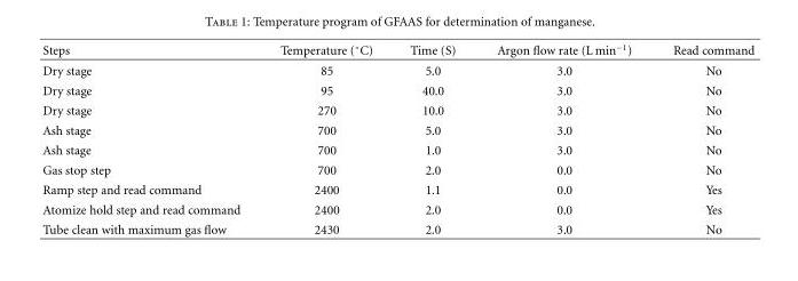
<table><thead><tr><td>Steps</td><td>Temperature (◦C)</td><td>Time (S)</td><td>Argon flow rate (L min<sup>−1</sup>)</td><td>Read command</td></tr></thead><tbody><tr><td>Dry stage</td><td>85</td><td>5.0</td><td>3.0</td><td>No</td></tr><tr><td>Dry stage</td><td>95</td><td>40.0</td><td>3.0</td><td>No</td></tr><tr><td>Dry stage</td><td>270</td><td>10.0</td><td>3.0</td><td>No</td></tr><tr><td>Ash stage</td><td>700</td><td>5.0</td><td>3.0</td><td>No</td></tr><tr><td>Ash stage</td><td>700</td><td>1.0</td><td>3.0</td><td>No</td></tr><tr><td>Gas stop step</td><td>700</td><td>2.0</td><td>0.0</td><td>No</td></tr><tr><td>Ramp step and read command</td><td>2400</td><td>1.1</td><td>0.0</td><td>Yes</td></tr><tr><td>Atomize hold step and read command</td><td>2400</td><td>2.0</td><td>0.0</td><td>Yes</td></tr><tr><td>Tube clean with maximum gas flow</td><td>2430</td><td>2.0</td><td>3.0</td><td>No</td></tr></tbody></table>